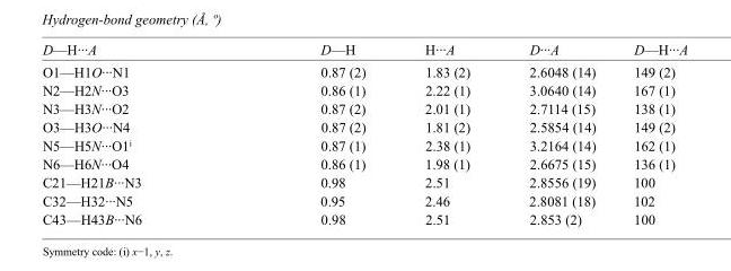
<table><tbody><tr><td>D—H···A</td><td>D—H</td><td>H···A</td><td>D···A</td><td>D—H···A</td></tr><tr><td>O1—H1O···N1</td><td>0.87 (2)</td><td>1.83 (2)</td><td>2.6048 (14)</td><td>149 (2)</td></tr><tr><td>N2—H2N···O3</td><td>0.86 (1)</td><td>2.22 (1)</td><td>3.0640 (14)</td><td>167 (1)</td></tr><tr><td>N3—H3N···O2</td><td>0.87 (2)</td><td>2.01 (1)</td><td>2.7114 (15)</td><td>138 (1)</td></tr><tr><td>O3—H3O···N4</td><td>0.87 (2)</td><td>1.81 (2)</td><td>2.5854 (14)</td><td>149 (2)</td></tr><tr><td>N5—H5N···O1<sup>i</sup></td><td>0.87 (1)</td><td>2.38 (1)</td><td>3.2164 (14)</td><td>162 (1)</td></tr><tr><td>N6—H6N···O4</td><td>0.86 (1)</td><td>1.98 (1)</td><td>2.6675 (15)</td><td>136 (1)</td></tr><tr><td>C21—H21B···N3</td><td>0.98</td><td>2.51</td><td>2.8556 (19)</td><td>100</td></tr><tr><td>C32—H32···N5</td><td>0.95</td><td>2.46</td><td>2.8081 (18)</td><td>102</td></tr><tr><td>C43—H43B···N6</td><td>0.98</td><td>2.51</td><td>2.853 (2)</td><td>100</td></tr></tbody></table>